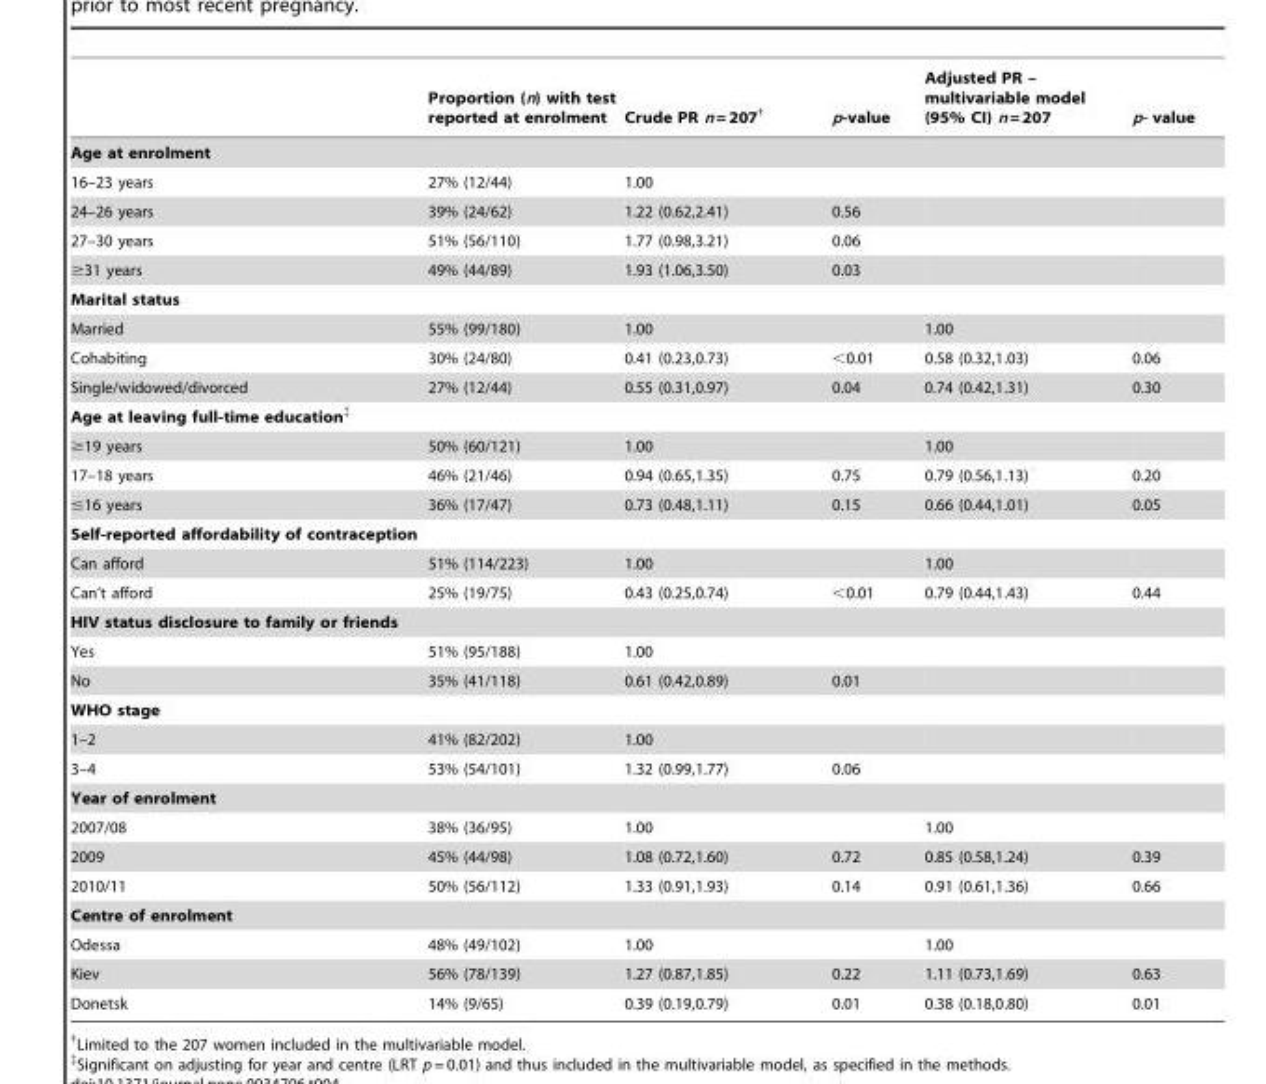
<table><thead><tr><td></td><td>Proportion (n) with test reported at enrolment</td><td>Crude PR n = 207†</td><td>p-value</td><td>Adjusted PR – multivariable model (95% CI) n = 207</td><td>p- value</td></tr></thead><tbody><tr><td colspan="6">Age at enrolment</td></tr><tr><td>16–23 years</td><td>27% (12/44)</td><td>1.00</td><td></td><td></td><td></td></tr><tr><td>24–26 years</td><td>39% (24/62)</td><td>1.22 (0.62,2.41)</td><td>0.56</td><td></td><td></td></tr><tr><td>27–30 years</td><td>51% (56/110)</td><td>1.77 (0.98,3.21)</td><td>0.06</td><td></td><td></td></tr><tr><td>≥31 years</td><td>49% (44/89)</td><td>1.93 (1.06,3.50)</td><td>0.03</td><td></td><td></td></tr><tr><td colspan="6">Marital status</td></tr><tr><td>Married</td><td>55% (99/180)</td><td>1.00</td><td></td><td>1.00</td><td></td></tr><tr><td>Cohabiting</td><td>30% (24/80)</td><td>0.41 (0.23,0.73)</td><td>&lt;0.01</td><td>0.58 (0.32,1.03)</td><td>0.06</td></tr><tr><td>Single/widowed/divorced</td><td>27% (12/44)</td><td>0.55 (0.31,0.97)</td><td>0.04</td><td>0.74 (0.42,1.31)</td><td>0.30</td></tr><tr><td colspan="6">Age at leaving full-time education‡</td></tr><tr><td>≥19 years</td><td>50% (60/121)</td><td>1.00</td><td></td><td>1.00</td><td></td></tr><tr><td>17–18 years</td><td>46% (21/46)</td><td>0.94 (0.65,1.35)</td><td>0.75</td><td>0.79 (0.56,1.13)</td><td>0.20</td></tr><tr><td>≤16 years</td><td>36% (17/47)</td><td>0.73 (0.48,1.11)</td><td>0.15</td><td>0.66 (0.44,1.01)</td><td>0.05</td></tr><tr><td colspan="6">Self-reported affordability of contraception</td></tr><tr><td>Can afford</td><td>51% (114/223)</td><td>1.00</td><td></td><td>1.00</td><td></td></tr><tr><td>Can’t afford</td><td>25% (19/75)</td><td>0.43 (0.25,0.74)</td><td>&lt;0.01</td><td>0.79 (0.44,1.43)</td><td>0.44</td></tr><tr><td colspan="6">HIV status disclosure to family or friends</td></tr><tr><td>Yes</td><td>51% (95/188)</td><td>1.00</td><td></td><td></td><td></td></tr><tr><td>No</td><td>35% (41/118)</td><td>0.61 (0.42,0.89)</td><td>0.01</td><td></td><td></td></tr><tr><td colspan="6">WHO stage</td></tr><tr><td>1–2</td><td>41% (82/202)</td><td>1.00</td><td></td><td></td><td></td></tr><tr><td>3–4</td><td>53% (54/101)</td><td>1.32 (0.99,1.77)</td><td>0.06</td><td></td><td></td></tr><tr><td colspan="6">Year of enrolment</td></tr><tr><td>2007/08</td><td>38% (36/95)</td><td>1.00</td><td></td><td>1.00</td><td></td></tr><tr><td>2009</td><td>45% (44/98)</td><td>1.08 (0.72,1.60)</td><td>0.72</td><td>0.85 (0.58,1.24)</td><td>0.39</td></tr><tr><td>2010/11</td><td>50% (56/112)</td><td>1.33 (0.91,1.93)</td><td>0.14</td><td>0.91 (0.61,1.36)</td><td>0.66</td></tr><tr><td colspan="6">Centre of enrolment</td></tr><tr><td>Odessa</td><td>48% (49/102)</td><td>1.00</td><td></td><td>1.00</td><td></td></tr><tr><td>Kiev</td><td>56% (78/139)</td><td>1.27 (0.87,1.85)</td><td>0.22</td><td>1.11 (0.73,1.69)</td><td>0.63</td></tr><tr><td>Donetsk</td><td>14% (9/65)</td><td>0.39 (0.19,0.79)</td><td>0.01</td><td>0.38 (0.18,0.80)</td><td>0.01</td></tr></tbody></table>